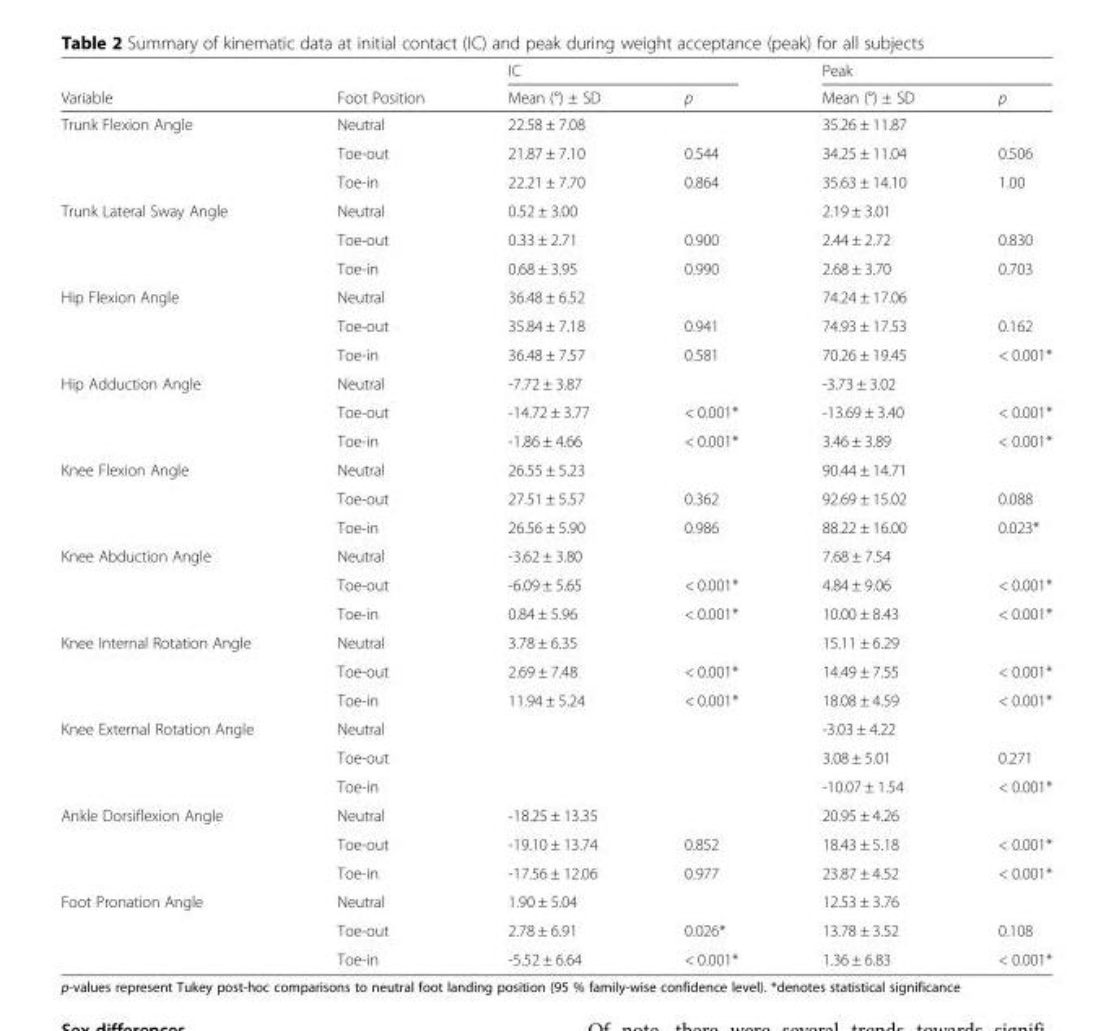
<table><thead><tr><td rowspan="2">Variable</td><td rowspan="2">Foot Position</td><td colspan="2">IC</td><td colspan="2">Peak</td></tr><tr><td>Mean (°) ± SD</td><td>p</td><td>Mean (°) ± SD</td><td>p</td></tr></thead><tbody><tr><td rowspan="3">Trunk Flexion Angle</td><td>Neutral</td><td>22.58 ± 7.08</td><td></td><td>35.26 ± 11.87</td><td></td></tr><tr><td>Toe-out</td><td>21.87 ± 7.10</td><td>0.544</td><td>34.25 ± 11.04</td><td>0.506</td></tr><tr><td>Toe-in</td><td>22.21 ± 7.70</td><td>0.864</td><td>35.63 ± 14.10</td><td>1.00</td></tr><tr><td rowspan="3">Trunk Lateral Sway Angle</td><td>Neutral</td><td>0.52 ± 3.00</td><td></td><td>2.19 ± 3.01</td><td></td></tr><tr><td>Toe-out</td><td>0.33 ± 2.71</td><td>0.900</td><td>2.44 ± 2.72</td><td>0.830</td></tr><tr><td>Toe-in</td><td>0.68 ± 3.95</td><td>0.990</td><td>2.68 ± 3.70</td><td>0.703</td></tr><tr><td rowspan="3">Hip Flexion Angle</td><td>Neutral</td><td>36.48 ± 6.52</td><td></td><td>74.24 ± 17.06</td><td></td></tr><tr><td>Toe-out</td><td>35.84 ± 7.18</td><td>0.941</td><td>74.93 ± 17.53</td><td>0.162</td></tr><tr><td>Toe-in</td><td>36.48 ± 7.57</td><td>0.581</td><td>70.26 ± 19.45</td><td>&lt; 0.001*</td></tr><tr><td rowspan="3">Hip Adduction Angle</td><td>Neutral</td><td>-7.72 ± 3.87</td><td></td><td>-3.73 ± 3.02</td><td></td></tr><tr><td>Toe-out</td><td>-14.72 ± 3.77</td><td>&lt; 0.001*</td><td>-13.69 ± 3.40</td><td>&lt; 0.001*</td></tr><tr><td>Toe-in</td><td>-1.86 ± 4.66</td><td>&lt; 0.001*</td><td>3.46 ± 3.89</td><td>&lt; 0.001*</td></tr><tr><td rowspan="3">Knee Flexion Angle</td><td>Neutral</td><td>26.55 ± 5.23</td><td></td><td>90.44 ± 14.71</td><td></td></tr><tr><td>Toe-out</td><td>27.51 ± 5.57</td><td>0.362</td><td>92.69 ± 15.02</td><td>0.088</td></tr><tr><td>Toe-in</td><td>26.56 ± 5.90</td><td>0.986</td><td>88.22 ± 16.00</td><td>0.023*</td></tr><tr><td rowspan="3">Knee Abduction Angle</td><td>Neutral</td><td>-3.62 ± 3.80</td><td></td><td>7.68 ± 7.54</td><td></td></tr><tr><td>Toe-out</td><td>-6.09 ± 5.65</td><td>&lt; 0.001*</td><td>4.84 ± 9.06</td><td>&lt; 0.001*</td></tr><tr><td>Toe-in</td><td>0.84 ± 5.96</td><td>&lt; 0.001*</td><td>10.00 ± 8.43</td><td>&lt; 0.001*</td></tr><tr><td rowspan="3">Knee Internal Rotation Angle</td><td>Neutral</td><td>3.78 ± 6.35</td><td></td><td>15.11 ± 6.29</td><td></td></tr><tr><td>Toe-out</td><td>2.69 ± 7.48</td><td>&lt; 0.001*</td><td>14.49 ± 7.55</td><td>&lt; 0.001*</td></tr><tr><td>Toe-in</td><td>11.94 ± 5.24</td><td>&lt; 0.001*</td><td>18.08 ± 4.59</td><td>&lt; 0.001*</td></tr><tr><td rowspan="3">Knee External Rotation Angle</td><td>Neutral</td><td></td><td></td><td>-3.03 ± 4.22</td><td></td></tr><tr><td>Toe-out</td><td></td><td></td><td>3.08 ± 5.01</td><td>0.271</td></tr><tr><td>Toe-in</td><td></td><td></td><td>-10.07 ± 1.54</td><td>&lt; 0.001*</td></tr><tr><td rowspan="3">Ankle Dorsiflexion Angle</td><td>Neutral</td><td>-18.25 ± 13.35</td><td></td><td>20.95 ± 4.26</td><td></td></tr><tr><td>Toe-out</td><td>-19.10 ± 13.74</td><td>0.852</td><td>18.43 ± 5.18</td><td>&lt; 0.001*</td></tr><tr><td>Toe-in</td><td>-17.56 ± 12.06</td><td>0.977</td><td>23.87 ± 4.52</td><td>&lt; 0.001*</td></tr><tr><td rowspan="3">Foot Pronation Angle</td><td>Neutral</td><td>1.90 ± 5.04</td><td></td><td>12.53 ± 3.76</td><td></td></tr><tr><td>Toe-out</td><td>2.78 ± 6.91</td><td>0.026*</td><td>13.78 ± 3.52</td><td>0.108</td></tr><tr><td>Toe-in</td><td>-5.52 ± 6.64</td><td>&lt; 0.001*</td><td>1.36 ± 6.83</td><td>&lt; 0.001*</td></tr></tbody></table>